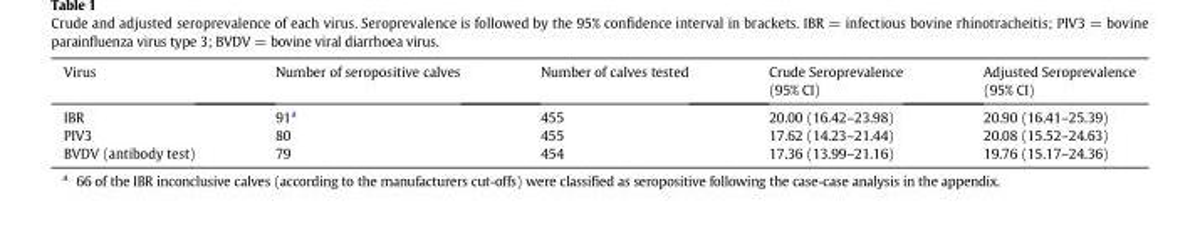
<table><thead><tr><td>Virus</td><td>Number of seropositive calves</td><td>Number of calves tested</td><td>Crude Seroprevalence (95% CI)</td><td>Adjusted Seroprevalence (95% CI)</td></tr></thead><tbody><tr><td>IBR</td><td>91<sup>a</sup></td><td>455</td><td>20.00 (16.42–23.98)</td><td>20.90 (16.41–25.39)</td></tr><tr><td>PIV3</td><td>80</td><td>455</td><td>17.62 (14.23–21.44)</td><td>20.08 (15.52–24.63)</td></tr><tr><td>BVDV (antibody test)</td><td>79</td><td>454</td><td>17.36 (13.99–21.16)</td><td>19.76 (15.17–24.36)</td></tr></tbody></table>